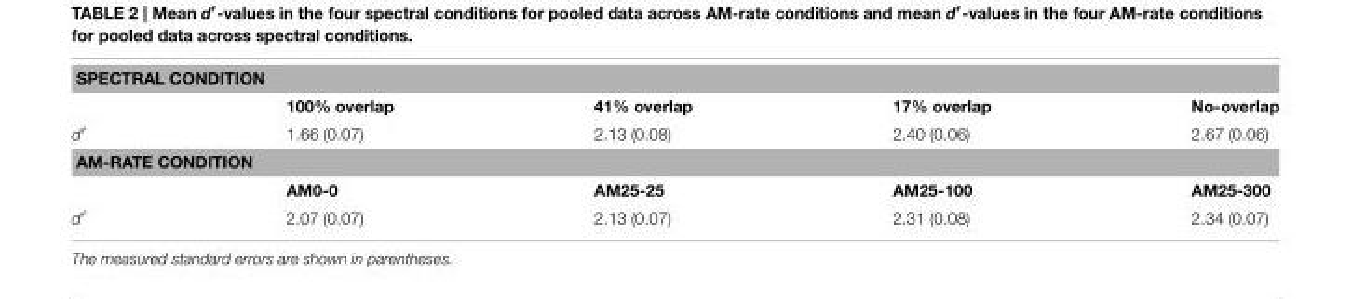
<table><tbody><tr><td colspan="5">SPECTRAL CONDITION</td></tr><tr><td></td><td>100% overlap</td><td>41% overlap</td><td>17% overlap</td><td>No-overlap</td></tr><tr><td>d′</td><td>1.66 (0.07)</td><td>2.13 (0.08)</td><td>2.40 (0.06)</td><td>2.67 (0.06)</td></tr><tr><td colspan="5">AM-RATE CONDITION</td></tr><tr><td></td><td>AM0-0</td><td>AM25-25</td><td>AM25-100</td><td>AM25-300</td></tr><tr><td>d′</td><td>2.07 (0.07)</td><td>2.13 (0.07)</td><td>2.31 (0.08)</td><td>2.34 (0.07)</td></tr></tbody></table>